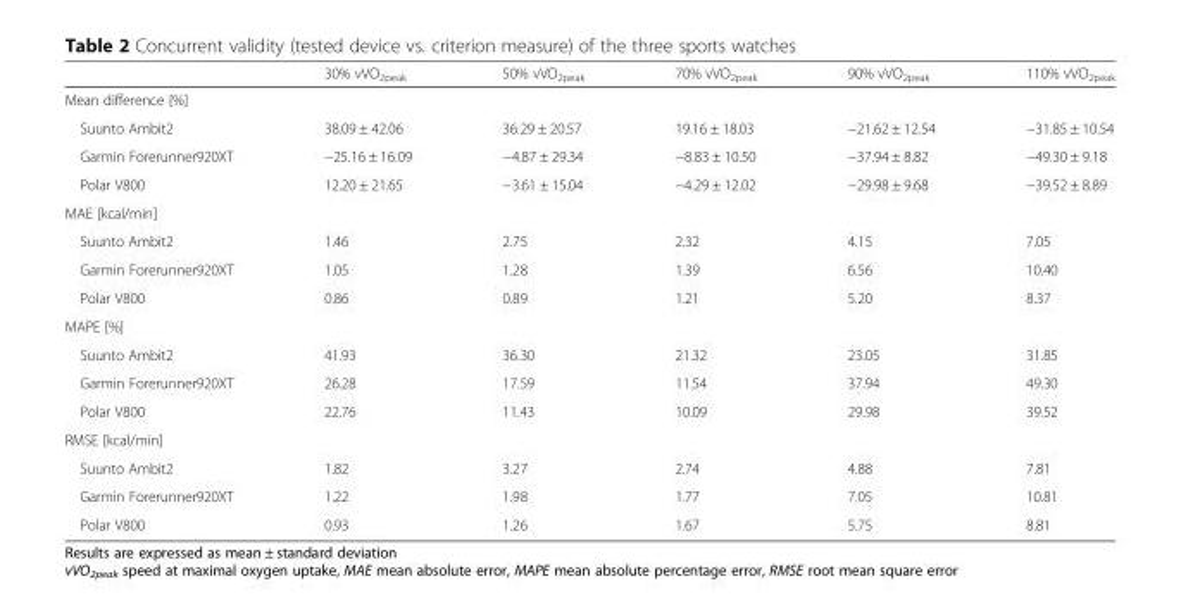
<table><thead><tr><td></td><td>30% vVO<sub>2peak</sub></td><td>50% vVO<sub>2peak</sub></td><td>70% vVO<sub>2peak</sub></td><td>90% vVO<sub>2peak</sub></td><td>110% vVO<sub>2peak</sub></td></tr></thead><tbody><tr><td colspan="6">Mean difference [%]</td></tr><tr><td>Suunto Ambit2</td><td>38.09 ± 42.06</td><td>36.29 ± 20.57</td><td>19.16 ± 18.03</td><td>−21.62 ± 12.54</td><td>−31.85 ± 10.54</td></tr><tr><td>Garmin Forerunner920XT</td><td>−25.16 ± 16.09</td><td>−4.87 ± 29.34</td><td>−8.83 ± 10.50</td><td>−37.94 ± 8.82</td><td>−49.30 ± 9.18</td></tr><tr><td>Polar V800</td><td>12.20 ± 21.65</td><td>−3.61 ± 15.04</td><td>−4.29 ± 12.02</td><td>−29.98 ± 9.68</td><td>−39.52 ± 8.89</td></tr><tr><td colspan="6">MAE [kcal/min]</td></tr><tr><td>Suunto Ambit2</td><td>1.46</td><td>2.75</td><td>2.32</td><td>4.15</td><td>7.05</td></tr><tr><td>Garmin Forerunner920XT</td><td>1.05</td><td>1.28</td><td>1.39</td><td>6.56</td><td>10.40</td></tr><tr><td>Polar V800</td><td>0.86</td><td>0.89</td><td>1.21</td><td>5.20</td><td>8.37</td></tr><tr><td colspan="6">MAPE [%]</td></tr><tr><td>Suunto Ambit2</td><td>41.93</td><td>36.30</td><td>21.32</td><td>23.05</td><td>31.85</td></tr><tr><td>Garmin Forerunner920XT</td><td>26.28</td><td>17.59</td><td>11.54</td><td>37.94</td><td>49.30</td></tr><tr><td>Polar V800</td><td>22.76</td><td>11.43</td><td>10.09</td><td>29.98</td><td>39.52</td></tr><tr><td colspan="6">RMSE [kcal/min]</td></tr><tr><td>Suunto Ambit2</td><td>1.82</td><td>3.27</td><td>2.74</td><td>4.88</td><td>7.81</td></tr><tr><td>Garmin Forerunner920XT</td><td>1.22</td><td>1.98</td><td>1.77</td><td>7.05</td><td>10.81</td></tr><tr><td>Polar V800</td><td>0.93</td><td>1.26</td><td>1.67</td><td>5.75</td><td>8.81</td></tr></tbody></table>